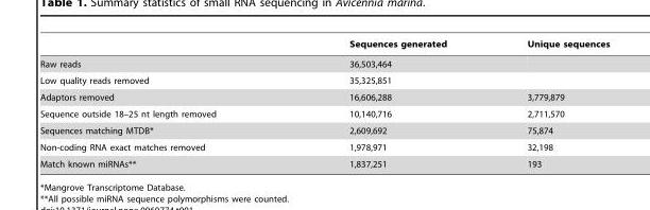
<table><thead><tr><td></td><td>Sequences generated</td><td>Unique sequences</td></tr></thead><tbody><tr><td>Raw reads</td><td>36,503,464</td><td></td></tr><tr><td>Low quality reads removed</td><td>35,325,851</td><td></td></tr><tr><td>Adaptors removed</td><td>16,606,288</td><td>3,779,879</td></tr><tr><td>Sequence outside 18–25 nt length removed</td><td>10,140,716</td><td>2,711,570</td></tr><tr><td>Sequences matching MTDB*</td><td>2,609,692</td><td>75,874</td></tr><tr><td>Non-coding RNA exact matches removed</td><td>1,978,971</td><td>32,198</td></tr><tr><td>Match known miRNAs**</td><td>1,837,251</td><td>193</td></tr></tbody></table>